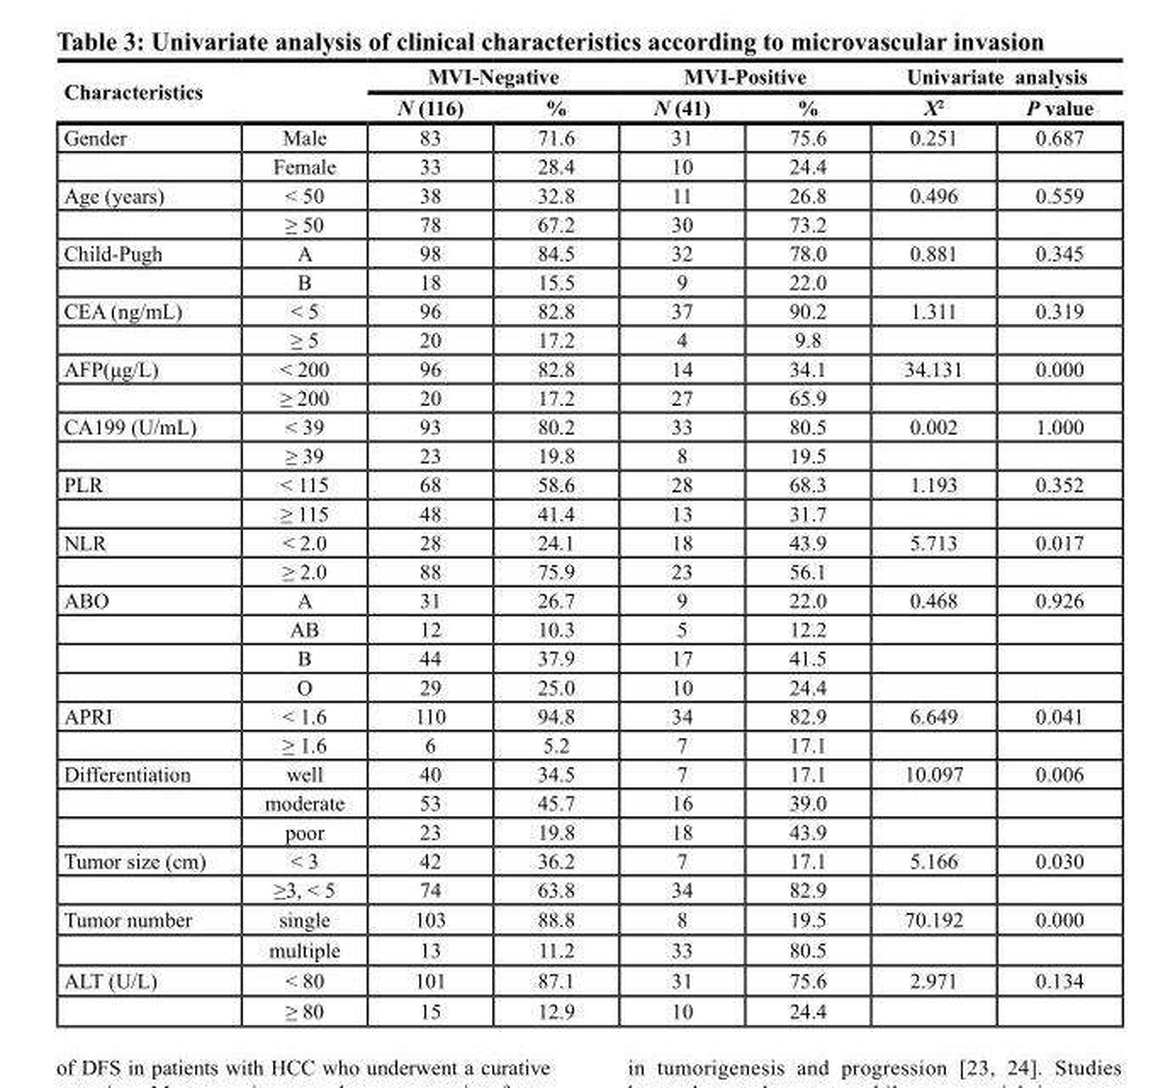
<table><thead><tr><td rowspan="2" colspan="2">Characteristics</td><td colspan="2">MVI-Negative</td><td colspan="2">MVI-Positive</td><td colspan="2">Univariate analysis</td></tr><tr><td rowspan="2">N (116) 83</td><td rowspan="2">% 71.6</td><td rowspan="2">N (41) 31</td><td rowspan="2">% 75.6</td><td rowspan="2">X<sup>2</sup> 0.251</td><td rowspan="2">P value 0.687</td></tr><tr><td>Gender</td><td>Male</td></tr></thead><tbody><tr><td></td><td>Female</td><td>33</td><td>28.4</td><td>10</td><td>24.4</td><td></td><td></td></tr><tr><td rowspan="2">Age (years)</td><td>&lt; 50</td><td>38</td><td>32.8</td><td>11</td><td>26.8</td><td>0.496</td><td>0.559</td></tr><tr><td>≥ 50</td><td>78</td><td>67.2</td><td>30</td><td>73.2</td><td></td><td></td></tr><tr><td rowspan="2">Child-Pugh</td><td>A</td><td>98</td><td>84.5</td><td>32</td><td>78.0</td><td>0.881</td><td>0.345</td></tr><tr><td>B</td><td>18</td><td>15.5</td><td>9</td><td>22.0</td><td></td><td></td></tr><tr><td rowspan="2">CEA (ng/mL)</td><td>&lt; 5</td><td>96</td><td>82.8</td><td>37</td><td>90.2</td><td>1.311</td><td>0.319</td></tr><tr><td>≥ 5</td><td>20</td><td>17.2</td><td>4</td><td>9.8</td><td></td><td></td></tr><tr><td rowspan="2">AFP(μg/L)</td><td>&lt; 200</td><td>96</td><td>82.8</td><td>14</td><td>34.1</td><td>34.131</td><td>0.000</td></tr><tr><td>≥ 200</td><td>20</td><td>17.2</td><td>27</td><td>65.9</td><td></td><td></td></tr><tr><td rowspan="2">CA199 (U/mL)</td><td>&lt; 39</td><td>93</td><td>80.2</td><td>33</td><td>80.5</td><td>0.002</td><td>1.000</td></tr><tr><td>≥ 39</td><td>23</td><td>19.8</td><td>8</td><td>19.5</td><td></td><td></td></tr><tr><td rowspan="2">PLR</td><td>&lt; 115</td><td>68</td><td>58.6</td><td>28</td><td>68.3</td><td>1.193</td><td>0.352</td></tr><tr><td>≥ 115</td><td>48</td><td>41.4</td><td>13</td><td>31.7</td><td></td><td></td></tr><tr><td rowspan="2">NLR</td><td>&lt; 2.0</td><td>28</td><td>24.1</td><td>18</td><td>43.9</td><td>5.713</td><td>0.017</td></tr><tr><td>≥ 2.0</td><td>88</td><td>75.9</td><td>23</td><td>56.1</td><td></td><td></td></tr><tr><td rowspan="4">ABO</td><td>A</td><td>31</td><td>26.7</td><td>9</td><td>22.0</td><td>0.468</td><td>0.926</td></tr><tr><td>AB</td><td>12</td><td>10.3</td><td>5</td><td>12.2</td><td></td><td></td></tr><tr><td>B</td><td>44</td><td>37.9</td><td>17</td><td>41.5</td><td></td><td></td></tr><tr><td>O</td><td>29</td><td>25.0</td><td>10</td><td>24.4</td><td></td><td></td></tr><tr><td rowspan="2">APRI</td><td>&lt; 1.6</td><td>110</td><td>94.8</td><td>34</td><td>82.9</td><td>6.649</td><td>0.041</td></tr><tr><td>≥ 1.6</td><td>6</td><td>5.2</td><td>7</td><td>17.1</td><td></td><td></td></tr><tr><td rowspan="3">Differentiation</td><td>well</td><td>40</td><td>34.5</td><td>7</td><td>17.1</td><td>10.097</td><td>0.006</td></tr><tr><td>moderate</td><td>53</td><td>45.7</td><td>16</td><td>39.0</td><td></td><td></td></tr><tr><td>poor</td><td>23</td><td>19.8</td><td>18</td><td>43.9</td><td></td><td></td></tr><tr><td rowspan="2">Tumor size (cm)</td><td>&lt; 3</td><td>42</td><td>36.2</td><td>7</td><td>17.1</td><td>5.166</td><td>0.030</td></tr><tr><td>≥3, &lt; 5</td><td>74</td><td>63.8</td><td>34</td><td>82.9</td><td></td><td></td></tr><tr><td rowspan="2">Tumor number</td><td>single</td><td>103</td><td>88.8</td><td>8</td><td>19.5</td><td>70.192</td><td>0.000</td></tr><tr><td>multiple</td><td>13</td><td>11.2</td><td>33</td><td>80.5</td><td></td><td></td></tr><tr><td rowspan="2">ALT (U/L)</td><td>&lt; 80</td><td>101</td><td>87.1</td><td>31</td><td>75.6</td><td>2.971</td><td>0.134</td></tr><tr><td>≥ 80</td><td>15</td><td>12.9</td><td>10</td><td>24.4</td><td></td><td></td></tr></tbody></table>